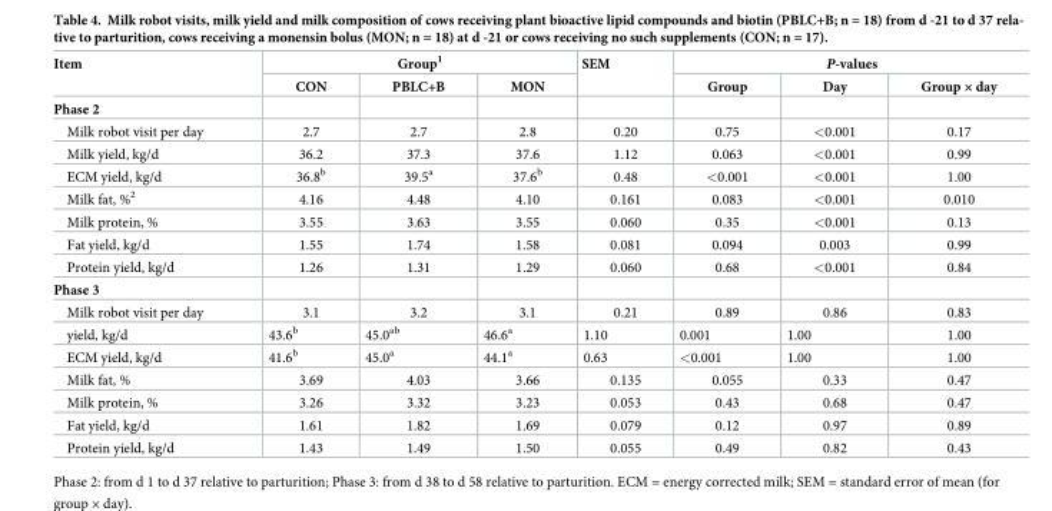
<table><thead><tr><td rowspan="2">Item</td><td colspan="3">Group<sup>1</sup></td><td rowspan="2">SEM</td><td colspan="3">P-values</td></tr><tr><td>CON</td><td>PBLC+B</td><td>MON</td><td>Group</td><td>Day</td><td>Group × day</td></tr></thead><tbody><tr><td colspan="8">Phase 2</td></tr><tr><td>Milk robot visit per day</td><td>2.7</td><td>2.7</td><td>2.8</td><td>0.20</td><td>0.75</td><td>&lt;0.001</td><td>0.17</td></tr><tr><td>Milk yield, kg/d</td><td>36.2</td><td>37.3</td><td>37.6</td><td>1.12</td><td>0.063</td><td>&lt;0.001</td><td>0.99</td></tr><tr><td>ECM yield, kg/d</td><td>36.8<sup>b</sup></td><td>39.5<sup>a</sup></td><td>37.6<sup>b</sup></td><td>0.48</td><td>&lt;0.001</td><td>&lt;0.001</td><td>1.00</td></tr><tr><td>Milk fat, %<sup>2</sup></td><td>4.16</td><td>4.48</td><td>4.10</td><td>0.161</td><td>0.083</td><td>&lt;0.001</td><td>0.010</td></tr><tr><td>Milk protein, %</td><td>3.55</td><td>3.63</td><td>3.55</td><td>0.060</td><td>0.35</td><td>&lt;0.001</td><td>0.13</td></tr><tr><td>Fat yield, kg/d</td><td>1.55</td><td>1.74</td><td>1.58</td><td>0.081</td><td>0.094</td><td>0.003</td><td>0.99</td></tr><tr><td>Protein yield, kg/d</td><td>1.26</td><td>1.31</td><td>1.29</td><td>0.060</td><td>0.68</td><td>&lt;0.001</td><td>0.84</td></tr><tr><td colspan="8">Phase 3</td></tr><tr><td>Milk robot visit per day</td><td>3.1</td><td>3.2</td><td>3.1</td><td>0.21</td><td>0.89</td><td>0.86</td><td>0.83</td></tr><tr><td>yield, kg/d</td><td>43.6<sup>b</sup></td><td>45.0<sup>ab</sup></td><td>46.6<sup>a</sup></td><td>1.10</td><td>0.001</td><td>1.00</td><td>1.00</td></tr><tr><td>ECM yield, kg/d</td><td>41.6<sup>b</sup></td><td>45.0<sup>a</sup></td><td>44.1<sup>a</sup></td><td>0.63</td><td>&lt;0.001</td><td>1.00</td><td>1.00</td></tr><tr><td>Milk fat, %</td><td>3.69</td><td>4.03</td><td>3.66</td><td>0.135</td><td>0.055</td><td>0.33</td><td>0.47</td></tr><tr><td>Milk protein, %</td><td>3.26</td><td>3.32</td><td>3.23</td><td>0.053</td><td>0.43</td><td>0.68</td><td>0.47</td></tr><tr><td>Fat yield, kg/d</td><td>1.61</td><td>1.82</td><td>1.69</td><td>0.079</td><td>0.12</td><td>0.97</td><td>0.89</td></tr><tr><td>Protein yield, kg/d</td><td>1.43</td><td>1.49</td><td>1.50</td><td>0.055</td><td>0.49</td><td>0.82</td><td>0.43</td></tr></tbody></table>